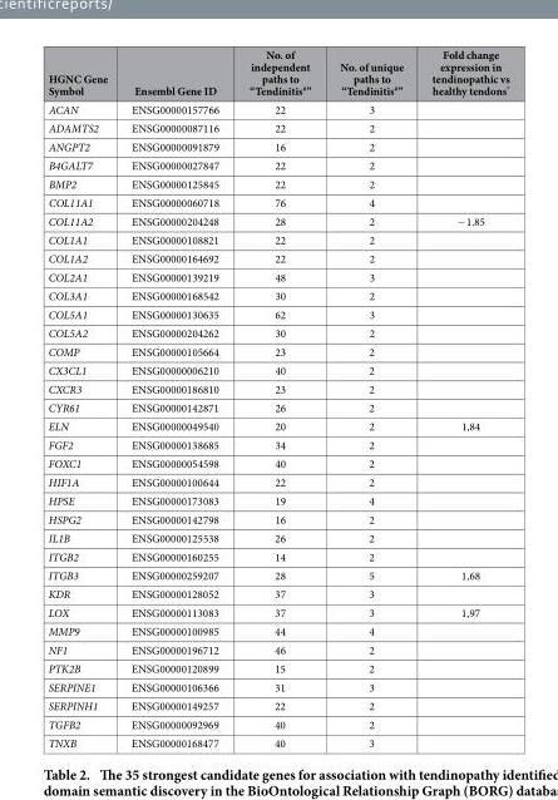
<table><thead><tr><td>HGNC Gene Symbol</td><td>Ensembl Gene ID</td><td>No. of independent paths to “Tendinitis<sup>#</sup>”</td><td>No. of unique paths to “Tendinitis<sup>#</sup>”</td><td>Fold change expression in tendinopathic vs healthy tendons*</td></tr></thead><tbody><tr><td>ACAN</td><td>ENSG00000157766</td><td>22</td><td>3</td><td></td></tr><tr><td>ADAMTS2</td><td>ENSG00000087116</td><td>22</td><td>2</td><td></td></tr><tr><td>ANGPT2</td><td>ENSG00000091879</td><td>16</td><td>2</td><td></td></tr><tr><td>B4GALT7</td><td>ENSG00000027847</td><td>22</td><td>2</td><td></td></tr><tr><td>BMP2</td><td>ENSG00000125845</td><td>22</td><td>2</td><td></td></tr><tr><td>COL11A1</td><td>ENSG00000060718</td><td>76</td><td>4</td><td></td></tr><tr><td>COL11A2</td><td>ENSG00000204248</td><td>28</td><td>2</td><td>− 1.85</td></tr><tr><td>COL1A1</td><td>ENSG00000108821</td><td>22</td><td>2</td><td></td></tr><tr><td>COL1A2</td><td>ENSG00000164692</td><td>22</td><td>2</td><td></td></tr><tr><td>COL2A1</td><td>ENSG00000139219</td><td>48</td><td>3</td><td></td></tr><tr><td>COL3A1</td><td>ENSG00000168542</td><td>30</td><td>2</td><td></td></tr><tr><td>COL5A1</td><td>ENSG00000130635</td><td>62</td><td>3</td><td></td></tr><tr><td>COL5A2</td><td>ENSG00000204262</td><td>30</td><td>2</td><td></td></tr><tr><td>COMP</td><td>ENSG00000105664</td><td>23</td><td>2</td><td></td></tr><tr><td>CX3CL1</td><td>ENSG00000006210</td><td>40</td><td>2</td><td></td></tr><tr><td>CXCR3</td><td>ENSG00000186810</td><td>23</td><td>2</td><td></td></tr><tr><td>CYR61</td><td>ENSG00000142871</td><td>26</td><td>2</td><td></td></tr><tr><td>ELN</td><td>ENSG00000049540</td><td>20</td><td>2</td><td>1,84</td></tr><tr><td>FGF2</td><td>ENSG00000138685</td><td>34</td><td>2</td><td></td></tr><tr><td>FOXC1</td><td>ENSG00000054598</td><td>40</td><td>2</td><td></td></tr><tr><td>HIF1A</td><td>ENSG00000100644</td><td>22</td><td>2</td><td></td></tr><tr><td>HPSE</td><td>ENSG00000173083</td><td>19</td><td>4</td><td></td></tr><tr><td>HSPG2</td><td>ENSG00000142798</td><td>16</td><td>2</td><td></td></tr><tr><td>IL1B</td><td>ENSG00000125538</td><td>26</td><td>2</td><td></td></tr><tr><td>ITGB2</td><td>ENSG00000160255</td><td>14</td><td>2</td><td></td></tr><tr><td>ITGB3</td><td>ENSG00000259207</td><td>28</td><td>5</td><td>1,68</td></tr><tr><td>KDR</td><td>ENSG00000128052</td><td>37</td><td>3</td><td></td></tr><tr><td>LOX</td><td>ENSG00000113083</td><td>37</td><td>3</td><td>1,97</td></tr><tr><td>MMP9</td><td>ENSG00000100985</td><td>44</td><td>4</td><td></td></tr><tr><td>NF1</td><td>ENSG00000196712</td><td>46</td><td>2</td><td></td></tr><tr><td>PTK2B</td><td>ENSG00000120899</td><td>15</td><td>2</td><td></td></tr><tr><td>SERPINE1</td><td>ENSG00000106366</td><td>31</td><td>3</td><td></td></tr><tr><td>SERPINH1</td><td>ENSG00000149257</td><td>22</td><td>2</td><td></td></tr><tr><td>TGFB2</td><td>ENSG00000092969</td><td>40</td><td>2</td><td></td></tr><tr><td>TNXB</td><td>ENSG00000168477</td><td>40</td><td>3</td><td></td></tr></tbody></table>